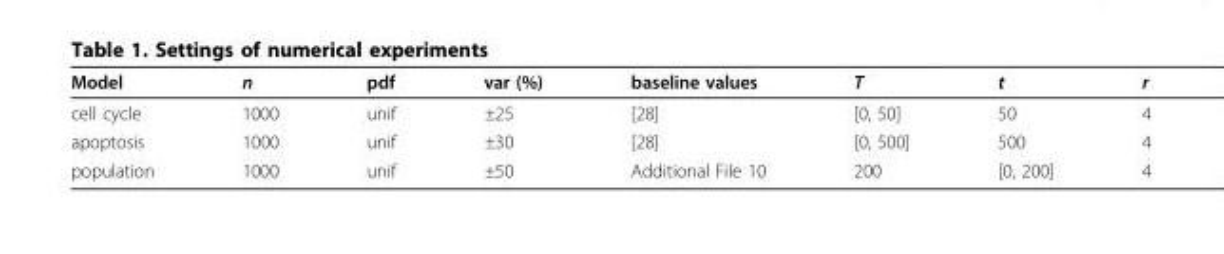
<table><thead><tr><td>Model</td><td>n</td><td>pdf</td><td>var (%)</td><td>baseline values</td><td>T</td><td>t</td><td>r</td></tr></thead><tbody><tr><td>cell cycle</td><td>1000</td><td>unif</td><td>±25</td><td>[28]</td><td>[0, 50]</td><td>50</td><td>4</td></tr><tr><td>apoptosis</td><td>1000</td><td>unif</td><td>±30</td><td>[28]</td><td>[0, 500]</td><td>500</td><td>4</td></tr><tr><td>population</td><td>1000</td><td>unif</td><td>±50</td><td>Additional File 10</td><td>200</td><td>[0, 200]</td><td>4</td></tr></tbody></table>